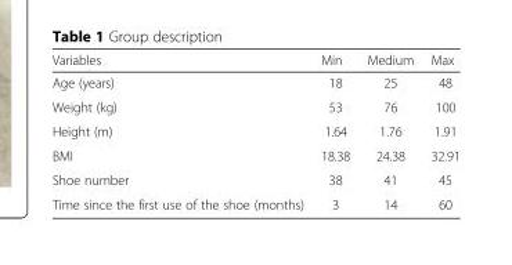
<table><thead><tr><td>Variables</td><td>Min</td><td>Medium</td><td>Max</td></tr></thead><tbody><tr><td>Age (years)</td><td>18</td><td>25</td><td>48</td></tr><tr><td>Weight (kg)</td><td>53</td><td>76</td><td>100</td></tr><tr><td>Height (m)</td><td>1.64</td><td>1.76</td><td>1.91</td></tr><tr><td>BMI</td><td>18.38</td><td>24.38</td><td>32.91</td></tr><tr><td>Shoe number</td><td>38</td><td>41</td><td>45</td></tr><tr><td>Time since the first use of the shoe (months)</td><td>3</td><td>14</td><td>60</td></tr></tbody></table>